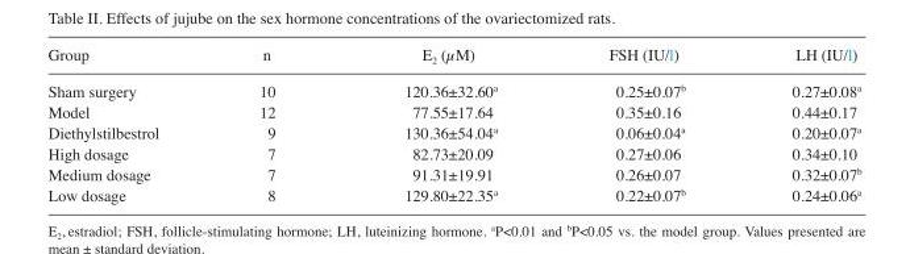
<table><thead><tr><td>Group</td><td>n</td><td>E<sub>2</sub> (µM)</td><td>FSH (IU/l)</td><td>LH (IU/l)</td></tr></thead><tbody><tr><td>Sham surgery</td><td>10</td><td>120.36±32.60<sup>a</sup></td><td>0.25±0.07<sup>b</sup></td><td>0.27±0.08<sup>a</sup></td></tr><tr><td>Model</td><td>12</td><td>77.55±17.64</td><td>0.35±0.16</td><td>0.44±0.17</td></tr><tr><td>Diethylstilbestrol</td><td>9</td><td>130.36±54.04<sup>a</sup></td><td>0.06±0.04<sup>a</sup></td><td>0.20±0.07<sup>a</sup></td></tr><tr><td>High dosage</td><td>7</td><td>82.73±20.09</td><td>0.27±0.06</td><td>0.34±0.10</td></tr><tr><td>Medium dosage</td><td>7</td><td>91.31±19.91</td><td>0.26±0.07</td><td>0.32±0.07<sup>b</sup></td></tr><tr><td>Low dosage</td><td>8</td><td>129.80±22.35<sup>a</sup></td><td>0.22±0.07<sup>b</sup></td><td>0.24±0.06<sup>a</sup></td></tr></tbody></table>